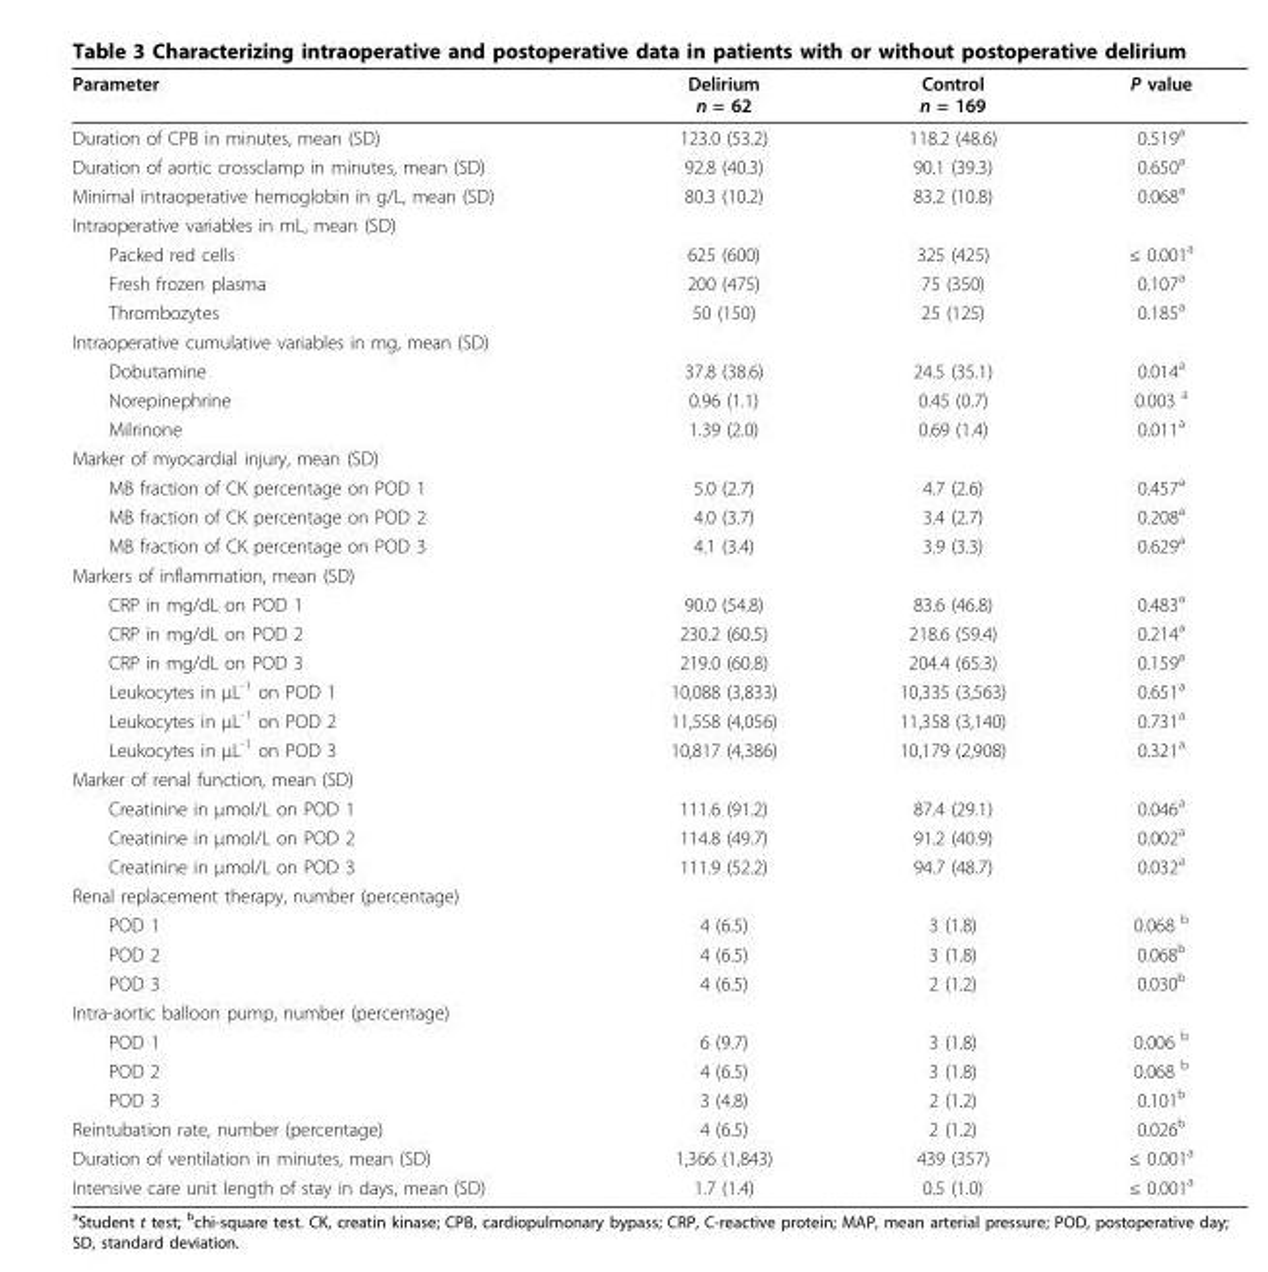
<table><thead><tr><td>Parameter</td><td>Delirium n = 62</td><td>Control n = 169</td><td>P value</td></tr></thead><tbody><tr><td>Duration of CPB in minutes, mean (SD)</td><td>123.0 (53.2)</td><td>118.2 (48.6)</td><td>0.519<sup>a</sup></td></tr><tr><td>Duration of aortic crossclamp in minutes, mean (SD)</td><td>92.8 (40.3)</td><td>90.1 (39.3)</td><td>0.650<sup>a</sup></td></tr><tr><td>Minimal intraoperative hemoglobin in g/L, mean (SD)</td><td>80.3 (10.2)</td><td>83.2 (10.8)</td><td>0.068<sup>a</sup></td></tr><tr><td colspan="4">Intraoperative variables in mL, mean (SD)</td></tr><tr><td>Packed red cells</td><td>625 (600)</td><td>325 (425)</td><td>≤ 0.001<sup>a</sup></td></tr><tr><td>Fresh frozen plasma</td><td>200 (475)</td><td>75 (350)</td><td>0.107<sup>a</sup></td></tr><tr><td>Thrombozytes</td><td>50 (150)</td><td>25 (125)</td><td>0.185<sup>a</sup></td></tr><tr><td colspan="4">Intraoperative cumulative variables in mg, mean (SD)</td></tr><tr><td>Dobutamine</td><td>37.8 (38.6)</td><td>24.5 (35.1)</td><td>0.014<sup>a</sup></td></tr><tr><td>Norepinephrine</td><td>0.96 (1.1)</td><td>0.45 (0.7)</td><td>0.003 <sup>a</sup></td></tr><tr><td>Milrinone</td><td>1.39 (2.0)</td><td>0.69 (1.4)</td><td>0.011<sup>a</sup></td></tr><tr><td colspan="4">Marker of myocardial injury, mean (SD)</td></tr><tr><td>MB fraction of CK percentage on POD 1</td><td>5.0 (2.7)</td><td>4.7 (2.6)</td><td>0.457<sup>a</sup></td></tr><tr><td>MB fraction of CK percentage on POD 2</td><td>4.0 (3.7)</td><td>3.4 (2.7)</td><td>0.208<sup>a</sup></td></tr><tr><td>MB fraction of CK percentage on POD 3</td><td>4.1 (3.4)</td><td>3.9 (3.3)</td><td>0.629<sup>a</sup></td></tr><tr><td colspan="4">Markers of inflammation, mean (SD)</td></tr><tr><td>CRP in mg/dL on POD 1</td><td>90.0 (54.8)</td><td>83.6 (46.8)</td><td>0.483<sup>a</sup></td></tr><tr><td>CRP in mg/dL on POD 2</td><td>230.2 (60.5)</td><td>218.6 (59.4)</td><td>0.214<sup>a</sup></td></tr><tr><td>CRP in mg/dL on POD 3</td><td>219.0 (60.8)</td><td>204.4 (65.3)</td><td>0.159<sup>a</sup></td></tr><tr><td>Leukocytes in μL<sup>-1</sup> on POD 1</td><td>10,088 (3,833)</td><td>10,335 (3,563)</td><td>0.651<sup>a</sup></td></tr><tr><td>Leukocytes in μL<sup>-1</sup> on POD 2</td><td>11,558 (4,056)</td><td>11,358 (3,140)</td><td>0.731<sup>a</sup></td></tr><tr><td>Leukocytes in μL<sup>-1</sup> on POD 3</td><td>10,817 (4,386)</td><td>10,179 (2,908)</td><td>0.321<sup>a</sup></td></tr><tr><td colspan="4">Marker of renal function, mean (SD)</td></tr><tr><td>Creatinine in μmol/L on POD 1</td><td>111.6 (91.2)</td><td>87.4 (29.1)</td><td>0.046<sup>a</sup></td></tr><tr><td>Creatinine in μmol/L on POD 2</td><td>114.8 (49.7)</td><td>91.2 (40.9)</td><td>0.002<sup>a</sup></td></tr><tr><td>Creatinine in μmol/L on POD 3</td><td>111.9 (52.2)</td><td>94.7 (48.7)</td><td>0.032<sup>a</sup></td></tr><tr><td colspan="4">Renal replacement therapy, number (percentage)</td></tr><tr><td>POD 1</td><td>4 (6.5)</td><td>3 (1.8)</td><td>0.068 <sup>b</sup></td></tr><tr><td>POD 2</td><td>4 (6.5)</td><td>3 (1.8)</td><td>0.068<sup>b</sup></td></tr><tr><td>POD 3</td><td>4 (6.5)</td><td>2 (1.2)</td><td>0.030<sup>b</sup></td></tr><tr><td colspan="4">Intra-aortic balloon pump, number (percentage)</td></tr><tr><td>POD 1</td><td>6 (9.7)</td><td>3 (1.8)</td><td>0.006 <sup>b</sup></td></tr><tr><td>POD 2</td><td>4 (6.5)</td><td>3 (1.8)</td><td>0.068 <sup>b</sup></td></tr><tr><td>POD 3</td><td>3 (4.8)</td><td>2 (1.2)</td><td>0.101<sup>b</sup></td></tr><tr><td>Reintubation rate, number (percentage)</td><td>4 (6.5)</td><td>2 (1.2)</td><td>0.026<sup>b</sup></td></tr><tr><td>Duration of ventilation in minutes, mean (SD)</td><td>1,366 (1,843)</td><td>439 (357)</td><td>≤ 0.001<sup>a</sup></td></tr><tr><td>Intensive care unit length of stay in days, mean (SD)</td><td>1.7 (1.4)</td><td>0.5 (1.0)</td><td>≤ 0.001<sup>a</sup></td></tr></tbody></table>